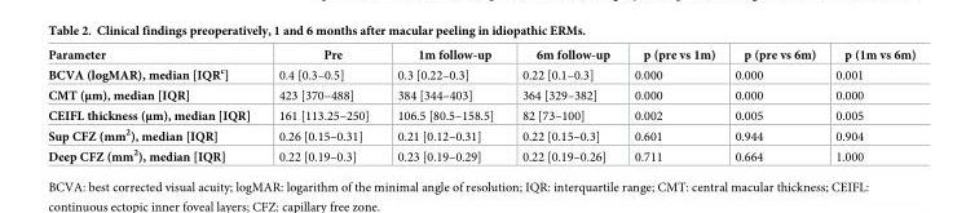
<table><thead><tr><td>Parameter</td><td>Pre</td><td>1m follow-up</td><td>6m follow-up</td><td>p (pre vs 1m)</td><td>p (pre vs 6m)</td><td>p (1m vs 6m)</td></tr></thead><tbody><tr><td>BCVA (logMAR), median [IQR<sup>c</sup>]</td><td>0.4 [0.3–0.5]</td><td>0.3 [0.22–0.3]</td><td>0.22 [0.1–0.3]</td><td>0.000</td><td>0.000</td><td>0.001</td></tr><tr><td>CMT (μm), median [IQR]</td><td>423 [370–488]</td><td>384 [344–403]</td><td>364 [329–382]</td><td>0.000</td><td>0.000</td><td>0.000</td></tr><tr><td>CEIFL thickness (μm), median [IQR]</td><td>161 [113.25–250]</td><td>106.5 [80.5–158.5]</td><td>82 [73–100]</td><td>0.002</td><td>0.005</td><td>0.005</td></tr><tr><td>Sup CFZ (mm<sup>2</sup>), median [IQR]</td><td>0.26 [0.15–0.31]</td><td>0.21 [0.12–0.31]</td><td>0.22 [0.15–0.3]</td><td>0.601</td><td>0.944</td><td>0.904</td></tr><tr><td>Deep CFZ (mm<sup>2</sup>), median [IQR]</td><td>0.22 [0.19–0.3]</td><td>0.23 [0.19–0.29]</td><td>0.22 [0.19–0.26]</td><td>0.711</td><td>0.664</td><td>1.000</td></tr></tbody></table>